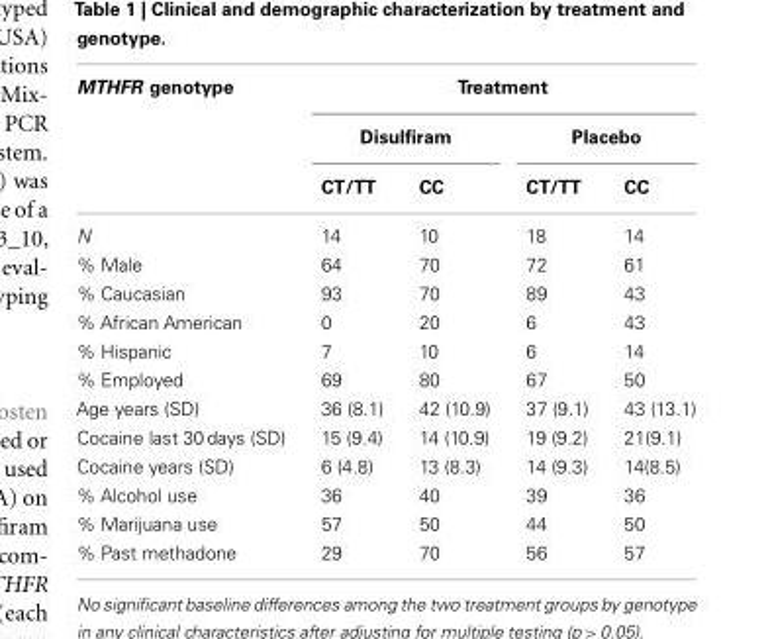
<table><thead><tr><td rowspan="3">MTHFR genotype</td><td colspan="4">Treatment</td></tr><tr><td colspan="2">Disulfiram</td><td colspan="2">Placebo</td></tr><tr><td>CT/TT</td><td>CC</td><td>CT/TT</td><td>CC</td></tr></thead><tbody><tr><td>N</td><td>14</td><td>10</td><td>18</td><td>14</td></tr><tr><td>% Male</td><td>64</td><td>70</td><td>72</td><td>61</td></tr><tr><td>% Caucasian</td><td>93</td><td>70</td><td>89</td><td>43</td></tr><tr><td>% African American</td><td>0</td><td>20</td><td>6</td><td>43</td></tr><tr><td>% Hispanic</td><td>7</td><td>10</td><td>6</td><td>14</td></tr><tr><td>% Employed</td><td>69</td><td>80</td><td>67</td><td>50</td></tr><tr><td>Age years (SD)</td><td>36 (8.1)</td><td>42 (10.9)</td><td>37 (9.1)</td><td>43 (13.1)</td></tr><tr><td>Cocaine last 30 days (SD)</td><td>15 (9.4)</td><td>14 (10.9)</td><td>19 (9.2)</td><td>21(9.1)</td></tr><tr><td>Cocaine years (SD)</td><td>6 (4.8)</td><td>13 (8.3)</td><td>14 (9.3)</td><td>14(8.5)</td></tr><tr><td>% Alcohol use</td><td>36</td><td>40</td><td>39</td><td>36</td></tr><tr><td>% Marijuana use</td><td>57</td><td>50</td><td>44</td><td>50</td></tr><tr><td>% Past methadone</td><td>29</td><td>70</td><td>56</td><td>57</td></tr></tbody></table>